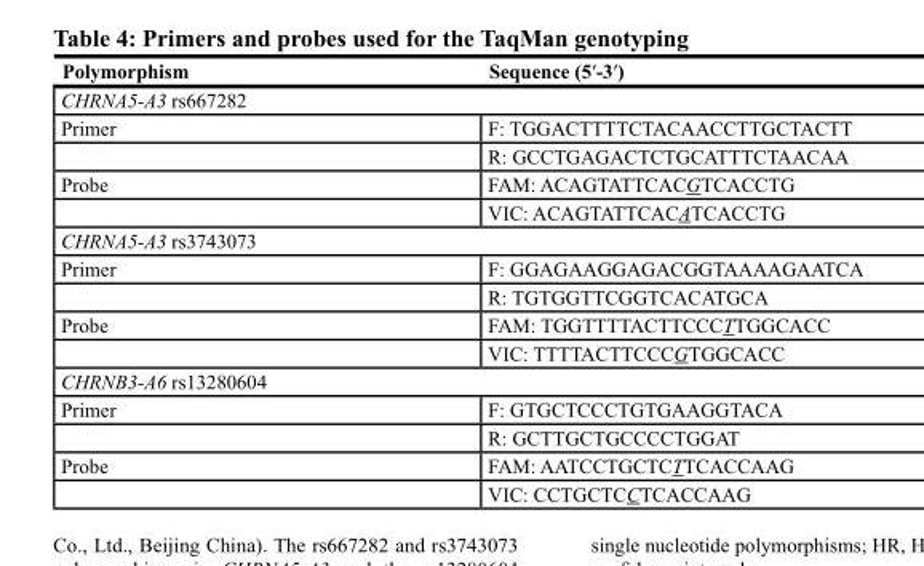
<table><thead><tr><td>Polymorphism</td><td>Sequence (5′-3′)</td></tr></thead><tbody><tr><td colspan="2">CHRNA5-A3 rs667282</td></tr><tr><td rowspan="2">Primer</td><td>F: TGGACTTTTCTACAACCTTGCTACTT</td></tr><tr><td>R: GCCTGAGACTCTGCATTTCTAACAA</td></tr><tr><td rowspan="2">Probe</td><td>FAM: ACAGTATTCACGTCACCTG</td></tr><tr><td>VIC: ACAGTATTCACATCACCTG</td></tr><tr><td colspan="2">CHRNA5-A3 rs3743073</td></tr><tr><td rowspan="2">Primer</td><td>F: GGAGAAGGAGACGGTAAAAGAATCA</td></tr><tr><td>R: TGTGGTTCGGTCACATGCA</td></tr><tr><td rowspan="2">Probe</td><td>FAM: TGGTTTTACTTCCCTTGGCACC</td></tr><tr><td>VIC: TTTTACTTCCCGTGGCACC</td></tr><tr><td colspan="2">CHRNB3-A6 rs13280604</td></tr><tr><td rowspan="2">Primer</td><td>F: GTGCTCCCTGTGAAGGTACA</td></tr><tr><td>R: GCTTGCTGCCCCTGGAT</td></tr><tr><td rowspan="2">Probe</td><td>FAM: AATCCTGCTCTTCACCAAG</td></tr><tr><td>VIC: CCTGCTCCTCACCAAG</td></tr></tbody></table>